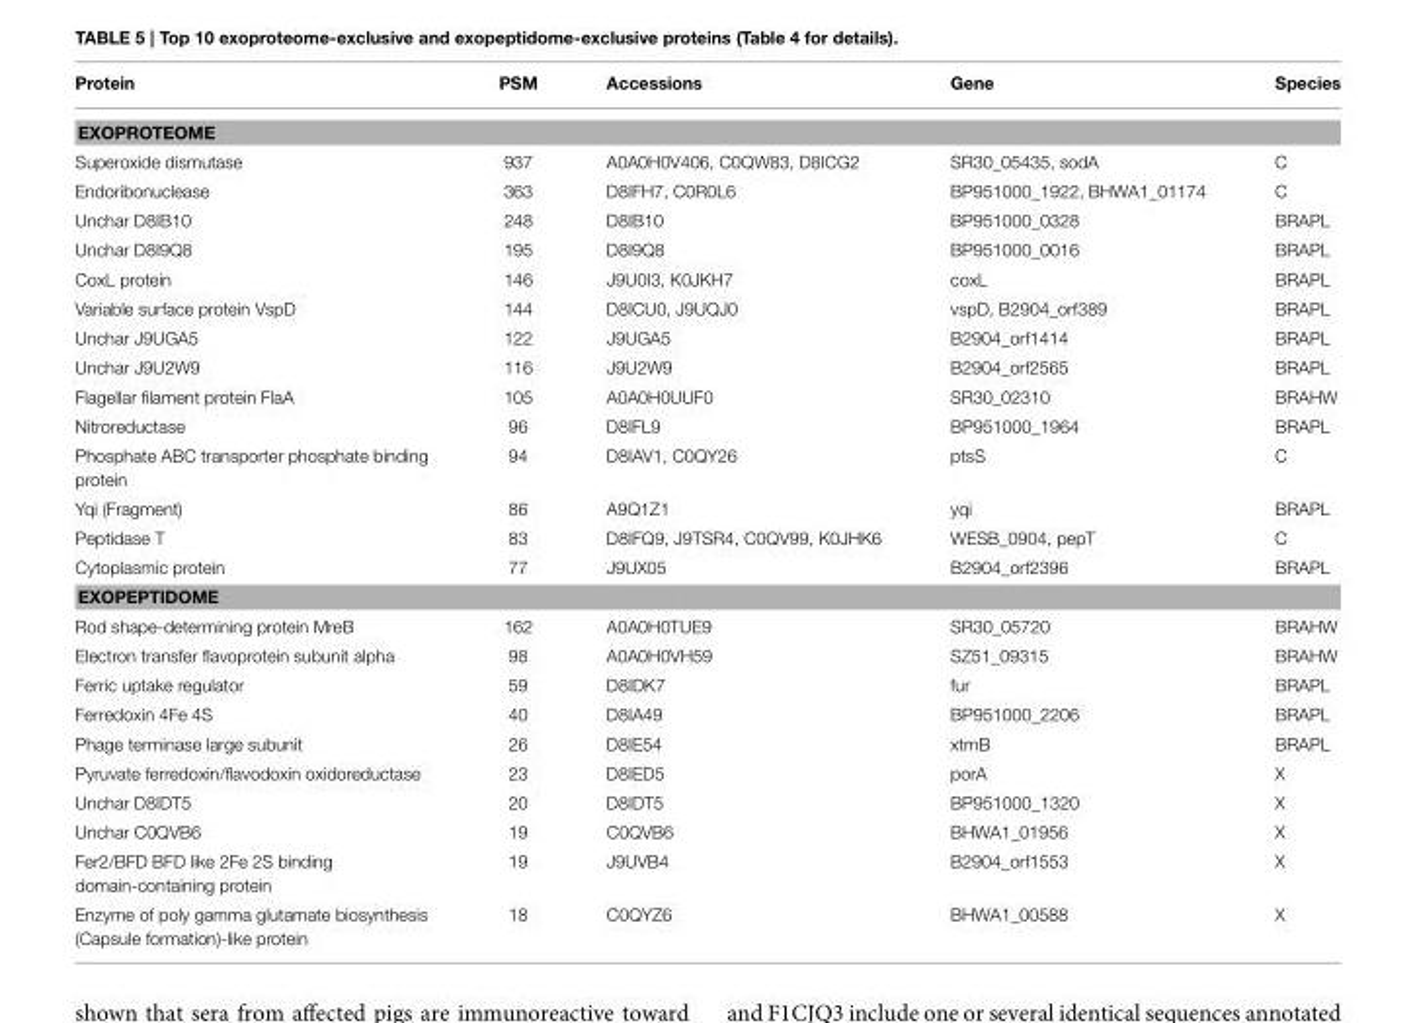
<table><thead><tr><td>Protein</td><td>PSM</td><td>Accessions</td><td>Gene</td><td>Species</td></tr></thead><tbody><tr><td colspan="5">EXOPROTEOME</td></tr><tr><td>Superoxide dismutase</td><td>937</td><td>A0A0H0V406, C0QW83, D8ICG2</td><td>SR30_05435, sodA</td><td>C</td></tr><tr><td>Endoribonuclease</td><td>363</td><td>D8IFH7, C0R0L6</td><td>BP951000_1922, BHWA1_01174</td><td>C</td></tr><tr><td>Unchar D8IB10</td><td>248</td><td>D8IB10</td><td>BP951000_0328</td><td>BRAPL</td></tr><tr><td>Unchar D8I9Q8</td><td>195</td><td>D8I9Q8</td><td>BP951000_0016</td><td>BRAPL</td></tr><tr><td>CoxL protein</td><td>146</td><td>J9U0I3, K0JKH7</td><td>coxL</td><td>BRAPL</td></tr><tr><td>Variable surface protein VspD</td><td>144</td><td>D8ICU0, J9UQJ0</td><td>vspD, B2904_orf389</td><td>BRAPL</td></tr><tr><td>Unchar J9UGA5</td><td>122</td><td>J9UGA5</td><td>B2904_orf1414</td><td>BRAPL</td></tr><tr><td>Unchar J9U2W9</td><td>116</td><td>J9U2W9</td><td>B2904_orf2565</td><td>BRAPL</td></tr><tr><td>Flagellar filament protein FlaA</td><td>105</td><td>A0A0H0UUF0</td><td>SR30_02310</td><td>BRAHW</td></tr><tr><td>Nitroreductase</td><td>96</td><td>D8IFL9</td><td>BP951000_1964</td><td>BRAPL</td></tr><tr><td>Phosphate ABC transporter phosphate binding protein</td><td>94</td><td>D8IAV1, C0QY26</td><td>ptsS</td><td>C</td></tr><tr><td>Yqi (Fragment)</td><td>86</td><td>A9Q1Z1</td><td>yqi</td><td>BRAPL</td></tr><tr><td>Peptidase T</td><td>83</td><td>D8IFQ9, J9TSR4, C0QV99, K0JHK6</td><td>WESB_0904, pepT</td><td>C</td></tr><tr><td>Cytoplasmic protein</td><td>77</td><td>J9UX05</td><td>B2904_orf2396</td><td>BRAPL</td></tr><tr><td colspan="5">EXOPEPTIDOME</td></tr><tr><td>Rod shape-determining protein MreB</td><td>162</td><td>A0A0H0TUE9</td><td>SR30_05720</td><td>BRAHW</td></tr><tr><td>Electron transfer flavoprotein subunit alpha</td><td>98</td><td>A0A0H0VH59</td><td>SZ51_09315</td><td>BRAHW</td></tr><tr><td>Ferric uptake regulator</td><td>59</td><td>D8IDK7</td><td>fur</td><td>BRAPL</td></tr><tr><td>Ferredoxin 4Fe 4S</td><td>40</td><td>D8IA49</td><td>BP951000_2206</td><td>BRAPL</td></tr><tr><td>Phage terminase large subunit</td><td>26</td><td>D8IE54</td><td>xtmB</td><td>BRAPL</td></tr><tr><td>Pyruvate ferredoxin/flavodoxin oxidoreductase</td><td>23</td><td>D8IED5</td><td>porA</td><td>X</td></tr><tr><td>Unchar D8IDT5</td><td>20</td><td>D8IDT5</td><td>BP951000_1320</td><td>X</td></tr><tr><td>Unchar C0QVB6</td><td>19</td><td>C0QVB6</td><td>BHWA1_01956</td><td>X</td></tr><tr><td>Fer2/BFD BFD like 2Fe 2S binding domain-containing protein</td><td>19</td><td>J9UVB4</td><td>B2904_orf1553</td><td>X</td></tr><tr><td>Enzyme of poly gamma glutamate biosynthesis (Capsule formation)-like protein</td><td>18</td><td>C0QYZ6</td><td>BHWA1_00588</td><td>X</td></tr></tbody></table>